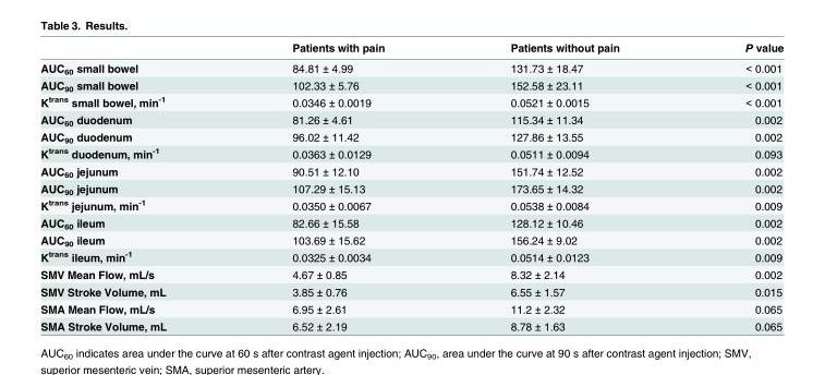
<table><thead><tr><td></td><td>Patients with pain</td><td>Patients without pain</td><td>P value</td></tr></thead><tbody><tr><td>AUC<sub>60</sub> small bowel</td><td>84.81 ± 4.99</td><td>131.73 ± 18.47</td><td>&lt; 0.001</td></tr><tr><td>AUC<sub>90</sub> small bowel</td><td>102.33 ± 5.76</td><td>152.58 ± 23.11</td><td>&lt; 0.001</td></tr><tr><td>K<sup>trans</sup> small bowel, min<sup>-1</sup></td><td>0.0346 ± 0.0019</td><td>0.0521 ± 0.0015</td><td>&lt; 0.001</td></tr><tr><td>AUC<sub>60</sub> duodenum</td><td>81.26 ± 4.61</td><td>115.34 ± 11.34</td><td>0.002</td></tr><tr><td>AUC<sub>90</sub> duodenum</td><td>96.02 ± 11.42</td><td>127.86 ± 13.55</td><td>0.002</td></tr><tr><td>K<sup>trans</sup> duodenum, min<sup>-1</sup></td><td>0.0363 ± 0.0129</td><td>0.0511 ± 0.0094</td><td>0.093</td></tr><tr><td>AUC<sub>60</sub> jejunum</td><td>90.51 ± 12.10</td><td>151.74 ± 12.52</td><td>0.002</td></tr><tr><td>AUC<sub>90</sub> jejunum</td><td>107.29 ± 15.13</td><td>173.65 ± 14.32</td><td>0.002</td></tr><tr><td>K<sup>trans</sup> jejunum, min<sup>-1</sup></td><td>0.0350 ± 0.0067</td><td>0.0538 ± 0.0084</td><td>0.009</td></tr><tr><td>AUC<sub>60</sub> ileum</td><td>82.66 ± 15.58</td><td>128.12 ± 10.46</td><td>0.002</td></tr><tr><td>AUC<sub>90</sub> ileum</td><td>103.69 ± 15.62</td><td>156.24 ± 9.02</td><td>0.002</td></tr><tr><td>K<sup>trans</sup> ileum, min<sup>-1</sup></td><td>0.0325 ± 0.0034</td><td>0.0514 ± 0.0123</td><td>0.009</td></tr><tr><td>SMV Mean Flow, mL/s</td><td>4.67 ± 0.85</td><td>8.32 ± 2.14</td><td>0.002</td></tr><tr><td>SMV Stroke Volume, mL</td><td>3.85 ± 0.76</td><td>6.55 ± 1.57</td><td>0.015</td></tr><tr><td>SMA Mean Flow, mL/s</td><td>6.95 ± 2.61</td><td>11.2 ± 2.32</td><td>0.065</td></tr><tr><td>SMA Stroke Volume, mL</td><td>6.52 ± 2.19</td><td>8.78 ± 1.63</td><td>0.065</td></tr></tbody></table>